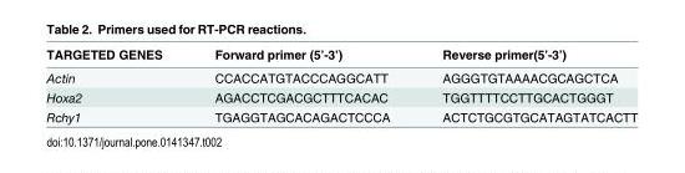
<table><thead><tr><td>TARGETED GENES</td><td>Forward primer (5’-3’)</td><td>Reverse primer(5’-3’)</td></tr></thead><tbody><tr><td>Actin</td><td>CCACCATGTACCCAGGCATT</td><td>AGGGTGTAAAACGCAGCTCA</td></tr><tr><td>Hoxa2</td><td>AGACCTCGACGCTTTCACAC</td><td>TGGTTTTCCTTGCACTGGGT</td></tr><tr><td>Rchy1</td><td>TGAGGTAGCACAGACTCCCA</td><td>ACTCTGCGTGCATAGTATCACTT</td></tr></tbody></table>